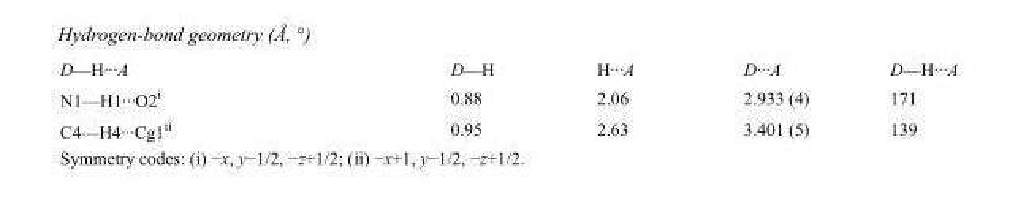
<table><tbody><tr><td>D—H···A</td><td>D—H</td><td>H···A</td><td>D···A</td><td>D—H···A</td></tr><tr><td>N1—H1···O2<sup>i</sup></td><td>0.88</td><td>2.06</td><td>2.933 (4)</td><td>171</td></tr><tr><td>C4—H4···Cg1<sup>ii</sup></td><td>0.95</td><td>2.63</td><td>3.401 (5)</td><td>139</td></tr></tbody></table>